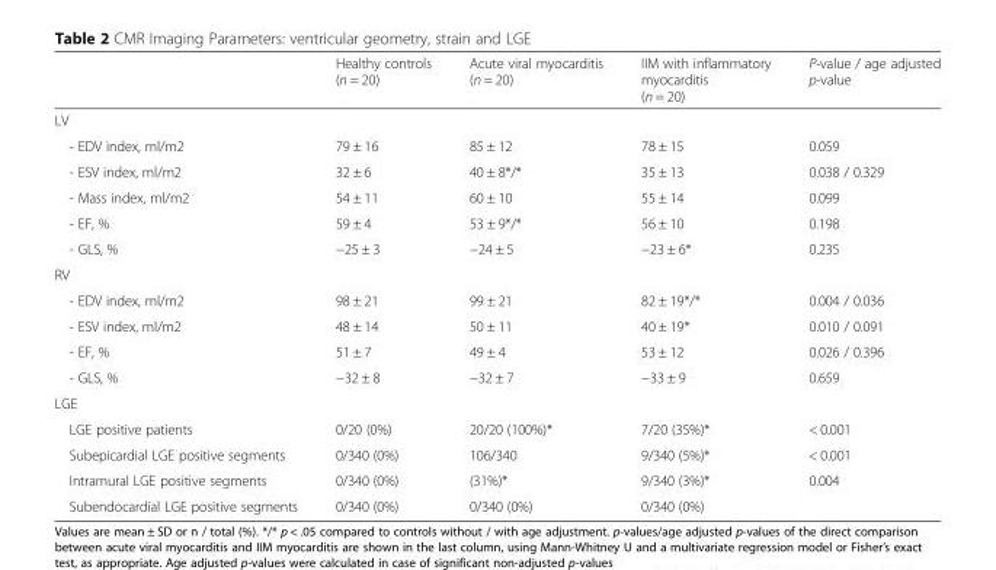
<table><thead><tr><td></td><td>Healthy controls (n = 20)</td><td>Acute viral myocarditis (n = 20)</td><td>IIM with inflammatory myocarditis (n = 20)</td><td>P-value / age adjusted p-value</td></tr></thead><tbody><tr><td colspan="5">LV</td></tr><tr><td>- EDV index, ml/m2</td><td>79 ± 16</td><td>85 ± 12</td><td>78 ± 15</td><td>0.059</td></tr><tr><td>- ESV index, ml/m2</td><td>32 ± 6</td><td>40 ± 8*/*</td><td>35 ± 13</td><td>0.038 / 0.329</td></tr><tr><td>- Mass index, ml/m2</td><td>54 ± 11</td><td>60 ± 10</td><td>55 ± 14</td><td>0.099</td></tr><tr><td>- EF, %</td><td>59 ± 4</td><td>53 ± 9*/*</td><td>56 ± 10</td><td>0.198</td></tr><tr><td>- GLS, %</td><td>−25 ± 3</td><td>−24 ± 5</td><td>−23 ± 6*</td><td>0.235</td></tr><tr><td colspan="5">RV</td></tr><tr><td>- EDV index, ml/m2</td><td>98 ± 21</td><td>99 ± 21</td><td>82 ± 19*/*</td><td>0.004 / 0.036</td></tr><tr><td>- ESV index, ml/m2</td><td>48 ± 14</td><td>50 ± 11</td><td>40 ± 19*</td><td>0.010 / 0.091</td></tr><tr><td>- EF, %</td><td>51 ± 7</td><td>49 ± 4</td><td>53 ± 12</td><td>0.026 / 0.396</td></tr><tr><td>- GLS, %</td><td>−32 ± 8</td><td>−32 ± 7</td><td>−33 ± 9</td><td>0.659</td></tr><tr><td colspan="5">LGE</td></tr><tr><td>LGE positive patients</td><td>0/20 (0%)</td><td>20/20 (100%)*</td><td>7/20 (35%)*</td><td>&lt; 0.001</td></tr><tr><td>Subepicardial LGE positive segments</td><td>0/340 (0%)</td><td>106/340</td><td>9/340 (5%)*</td><td>&lt; 0.001</td></tr><tr><td>Intramural LGE positive segments</td><td>0/340 (0%)</td><td>(31%)*</td><td>9/340 (3%)*</td><td>0.004</td></tr><tr><td>Subendocardial LGE positive segments</td><td>0/340 (0%)</td><td>0/340 (0%)</td><td>0/340 (0%)</td><td></td></tr></tbody></table>